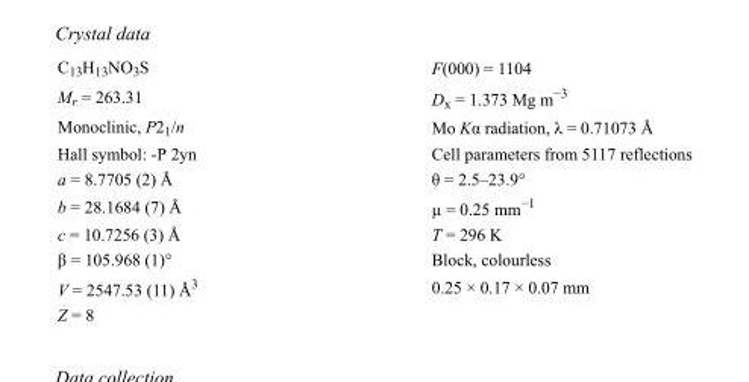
<table><tbody><tr><td>C<sub>13</sub>H<sub>13</sub>NO<sub>3</sub>S</td><td>F(000) = 1104</td></tr><tr><td>M<sub>r</sub> = 263.31</td><td>D<sub>x</sub> = 1.373 Mg m<sup>−3</sup></td></tr><tr><td>Monoclinic, P2<sub>1</sub>/n</td><td>Mo Kα radiation, λ = 0.71073 Å</td></tr><tr><td>Hall symbol: -P 2yn</td><td>Cell parameters from 5117 reflections</td></tr><tr><td>a = 8.7705 (2) Å</td><td>θ = 2.5–23.9°</td></tr><tr><td>b = 28.1684 (7) Å</td><td>µ = 0.25 mm<sup>−1</sup></td></tr><tr><td>c = 10.7256 (3) Å</td><td>T = 296 K</td></tr><tr><td>β = 105.968 (1)°</td><td>Block, colourless</td></tr><tr><td>V = 2547.53 (11) Å<sup>3</sup></td><td>0.25 × 0.17 × 0.07 mm</td></tr><tr><td>Z = 8</td><td></td></tr></tbody></table>